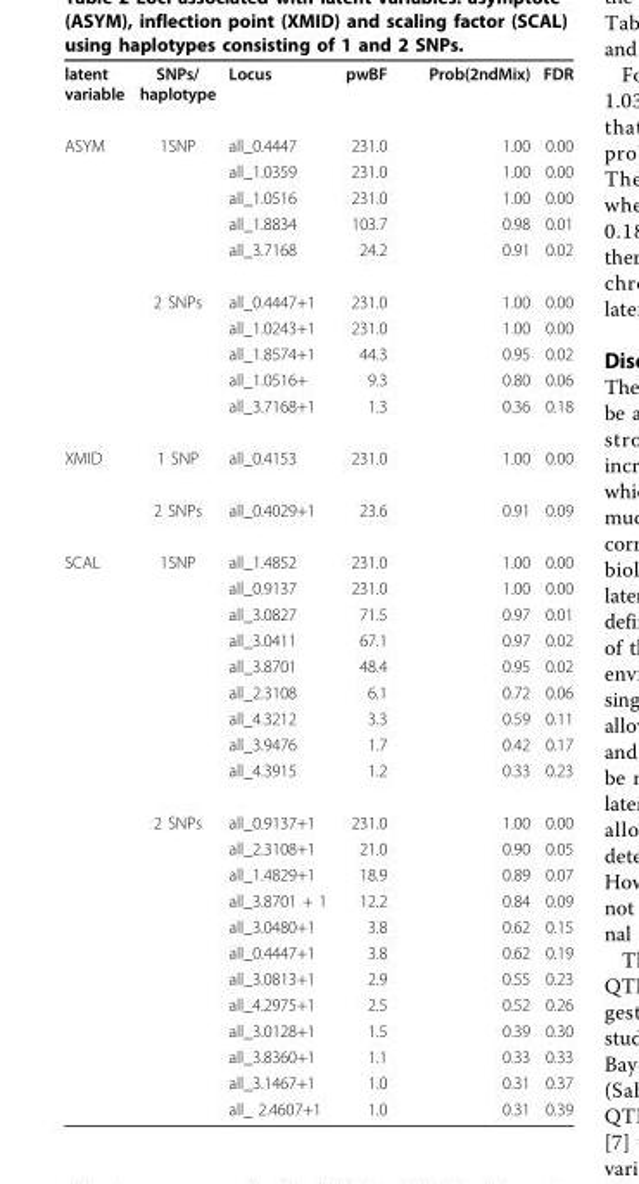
<table><tbody><tr><td>latent variable</td><td>SNPs/ haplotype</td><td>Locus</td><td>pwBF</td><td>Prob(2ndMix)</td><td>FDR</td></tr><tr><td rowspan="10">ASYM</td><td>1SNP</td><td>all_0.4447</td><td>231.0</td><td>1.00</td><td>0.00</td></tr><tr><td></td><td>all_1.0359</td><td>231.0</td><td>1.00</td><td>0.00</td></tr><tr><td></td><td>all_1.0516</td><td>231.0</td><td>1.00</td><td>0.00</td></tr><tr><td></td><td>all_1.8834</td><td>103.7</td><td>0.98</td><td>0.01</td></tr><tr><td></td><td>all_3.7168</td><td>24.2</td><td>0.91</td><td>0.02</td></tr><tr><td>2 SNPs</td><td>all_0.4447+1</td><td>231.0</td><td>1.00</td><td>0.00</td></tr><tr><td></td><td>all_1.0243+1</td><td>231.0</td><td>1.00</td><td>0.00</td></tr><tr><td></td><td>all_1.8574+1</td><td>44.3</td><td>0.95</td><td>0.02</td></tr><tr><td></td><td>all_1.0516+</td><td>9.3</td><td>0.80</td><td>0.06</td></tr><tr><td></td><td>all_3.7168+1</td><td>1.3</td><td>0.36</td><td>0.18</td></tr><tr><td rowspan="2">XMID</td><td>1 SNP</td><td>all_0.4153</td><td>231.0</td><td>1.00</td><td>0.00</td></tr><tr><td>2 SNPs</td><td>all_0.4029+1</td><td>23.6</td><td>0.91</td><td>0.09</td></tr><tr><td rowspan="21">SCAL</td><td>1SNP</td><td>all_1.4852</td><td>231.0</td><td>1.00</td><td>0.00</td></tr><tr><td></td><td>all_0.9137</td><td>231.0</td><td>1.00</td><td>0.00</td></tr><tr><td></td><td>all_3.0827</td><td>71.5</td><td>0.97</td><td>0.01</td></tr><tr><td></td><td>all_3.0411</td><td>67.1</td><td>0.97</td><td>0.02</td></tr><tr><td></td><td>all_3.8701</td><td>48.4</td><td>0.95</td><td>0.02</td></tr><tr><td></td><td>all_2.3108</td><td>6.1</td><td>0.72</td><td>0.06</td></tr><tr><td></td><td>all_4.3212</td><td>3.3</td><td>0.59</td><td>0.11</td></tr><tr><td></td><td>all_3.9476</td><td>1.7</td><td>0.42</td><td>0.17</td></tr><tr><td></td><td>all_4.3915</td><td>1.2</td><td>0.33</td><td>0.23</td></tr><tr><td>2 SNPs</td><td>all_0.9137+1</td><td>231.0</td><td>1.00</td><td>0.00</td></tr><tr><td></td><td>all_2.3108+1</td><td>21.0</td><td>0.90</td><td>0.05</td></tr><tr><td></td><td>all_1.4829+1</td><td>18.9</td><td>0.89</td><td>0.07</td></tr><tr><td></td><td>all_3.8701 + 1</td><td>12.2</td><td>0.84</td><td>0.09</td></tr><tr><td></td><td>all_3.0480+1</td><td>3.8</td><td>0.62</td><td>0.15</td></tr><tr><td></td><td>all_0.4447+1</td><td>3.8</td><td>0.62</td><td>0.19</td></tr><tr><td></td><td>all_3.0813+1</td><td>2.9</td><td>0.55</td><td>0.23</td></tr><tr><td></td><td>all_4.2975+1</td><td>2.5</td><td>0.52</td><td>0.26</td></tr><tr><td></td><td>all_3.0128+1</td><td>1.5</td><td>0.39</td><td>0.30</td></tr><tr><td></td><td>all_3.8360+1</td><td>1.1</td><td>0.33</td><td>0.33</td></tr><tr><td></td><td>all_3.1467+1</td><td>1.0</td><td>0.31</td><td>0.37</td></tr><tr><td></td><td>all_ 2.4607+1</td><td>1.0</td><td>0.31</td><td>0.39</td></tr></tbody></table>